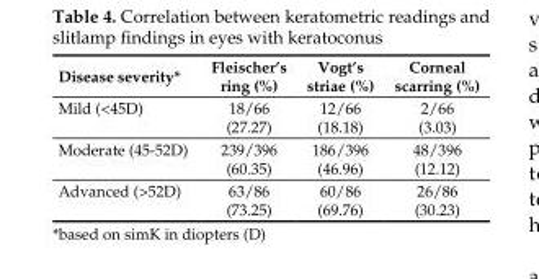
<table><thead><tr><td>Disease severity*</td><td>Fleischer’s ring (%)</td><td>Vogt’s striae (%)</td><td>Corneal scarring (%)</td></tr></thead><tbody><tr><td>Mild (&lt;45D)</td><td>18/66 (27.27)</td><td>12/66 (18.18)</td><td>2/66 (3.03)</td></tr><tr><td>Moderate (45-52D)</td><td>239/396 (60.35)</td><td>186/396 (46.96)</td><td>48/396 (12.12)</td></tr><tr><td>Advanced (&gt;52D)</td><td>63/86 (73.25)</td><td>60/86 (69.76)</td><td>26/86 (30.23)</td></tr></tbody></table>